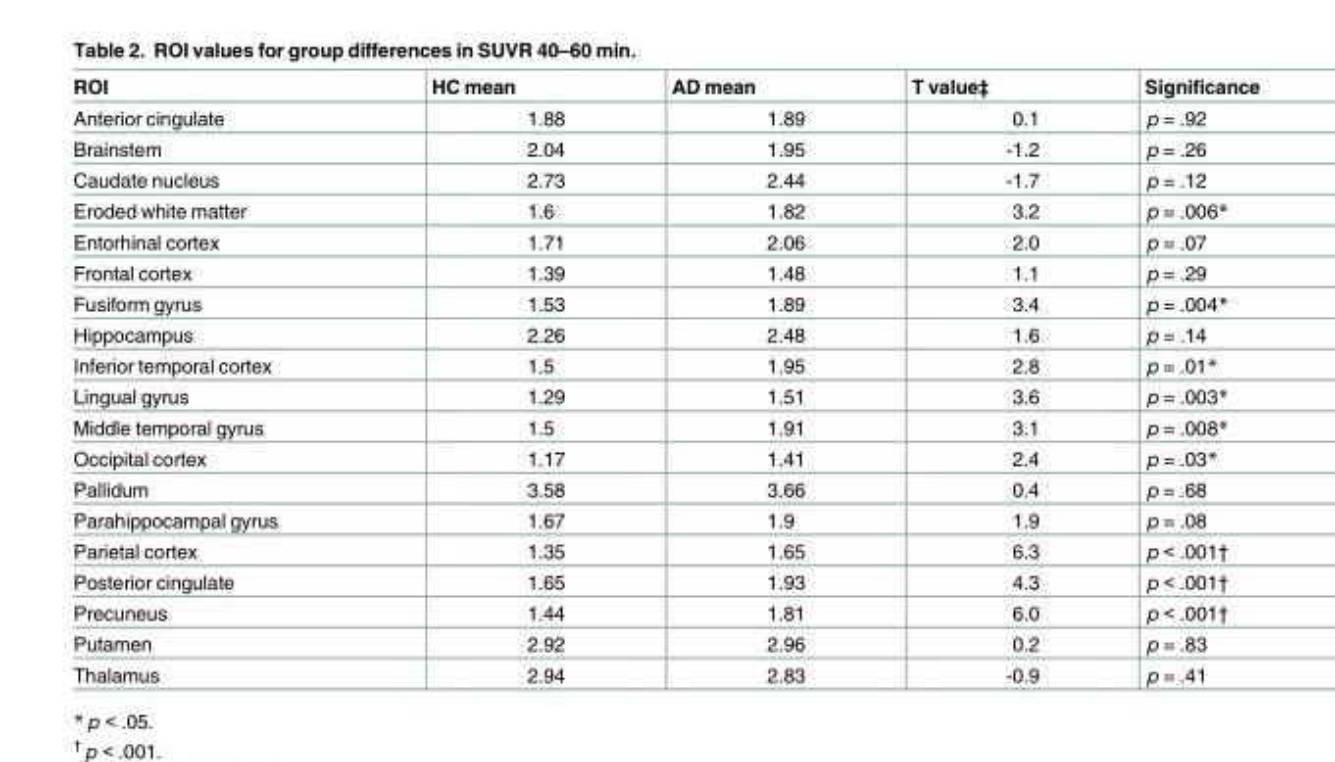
<table><thead><tr><td>ROI</td><td>HC mean</td><td>AD mean</td><td>T value‡</td><td>Significance</td></tr></thead><tbody><tr><td>Anterior cingulate</td><td>1.88</td><td>1.89</td><td>0.1</td><td>p = .92</td></tr><tr><td>Brainstem</td><td>2.04</td><td>1.95</td><td>-1.2</td><td>p = .26</td></tr><tr><td>Caudate nucleus</td><td>2.73</td><td>2.44</td><td>-1.7</td><td>p = .12</td></tr><tr><td>Eroded white matter</td><td>1.6</td><td>1.82</td><td>3.2</td><td>p = .006*</td></tr><tr><td>Entorhinal cortex</td><td>1.71</td><td>2.06</td><td>2.0</td><td>p = .07</td></tr><tr><td>Frontal cortex</td><td>1.39</td><td>1.48</td><td>1.1</td><td>p = .29</td></tr><tr><td>Fusiform gyrus</td><td>1.53</td><td>1.89</td><td>3.4</td><td>p = .004*</td></tr><tr><td>Hippocampus</td><td>2.26</td><td>2.48</td><td>1.6</td><td>p = .14</td></tr><tr><td>Inferior temporal cortex</td><td>1.5</td><td>1.95</td><td>2.8</td><td>p = .01*</td></tr><tr><td>Lingual gyrus</td><td>1.29</td><td>1.51</td><td>3.6</td><td>p = .003*</td></tr><tr><td>Middle temporal gyrus</td><td>1.5</td><td>1.91</td><td>3.1</td><td>p = .008*</td></tr><tr><td>Occipital cortex</td><td>1.17</td><td>1.41</td><td>2.4</td><td>p = .03*</td></tr><tr><td>Pallidum</td><td>3.58</td><td>3.66</td><td>0.4</td><td>p = .68</td></tr><tr><td>Parahippocampal gyrus</td><td>1.67</td><td>1.9</td><td>1.9</td><td>p = .08</td></tr><tr><td>Parietal cortex</td><td>1.35</td><td>1.65</td><td>6.3</td><td>p &lt; .001†</td></tr><tr><td>Posterior cingulate</td><td>1.65</td><td>1.93</td><td>4.3</td><td>p &lt; .001†</td></tr><tr><td>Precuneus</td><td>1.44</td><td>1.81</td><td>6.0</td><td>p &lt; .001†</td></tr><tr><td>Putamen</td><td>2.92</td><td>2.96</td><td>0.2</td><td>p = .83</td></tr><tr><td>Thalamus</td><td>2.94</td><td>2.83</td><td>-0.9</td><td>p = .41</td></tr></tbody></table>